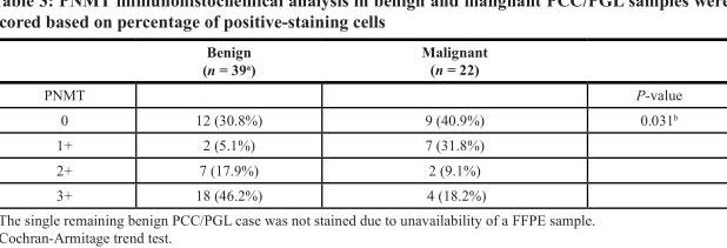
<table><thead><tr><td></td><td>Benign (n = 39<sup>a</sup>)</td><td>Malignant (n = 22)</td><td></td></tr></thead><tbody><tr><td>PNMT</td><td></td><td></td><td>P-value</td></tr><tr><td>0</td><td>12 (30.8%)</td><td>9 (40.9%)</td><td>0.031<sup>b</sup></td></tr><tr><td>1+</td><td>2 (5.1%)</td><td>7 (31.8%)</td><td></td></tr><tr><td>2+</td><td>7 (17.9%)</td><td>2 (9.1%)</td><td></td></tr><tr><td>3+</td><td>18 (46.2%)</td><td>4 (18.2%)</td><td></td></tr></tbody></table>